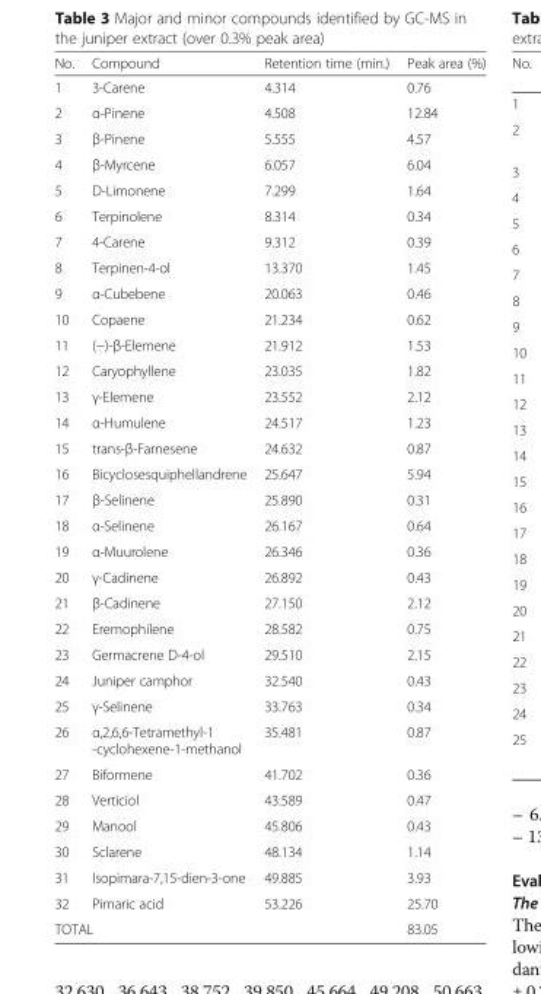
<table><thead><tr><td>No.</td><td>Compound</td><td>Retention time (min.)</td><td>Peak area (%)</td></tr></thead><tbody><tr><td>1</td><td>3-Carene</td><td>4.314</td><td>0.76</td></tr><tr><td>2</td><td>α-Pinene</td><td>4.508</td><td>12.84</td></tr><tr><td>3</td><td>β-Pinene</td><td>5.555</td><td>4.57</td></tr><tr><td>4</td><td>β-Myrcene</td><td>6.057</td><td>6.04</td></tr><tr><td>5</td><td>D-Limonene</td><td>7.299</td><td>1.64</td></tr><tr><td>6</td><td>Terpinolene</td><td>8.314</td><td>0.34</td></tr><tr><td>7</td><td>4-Carene</td><td>9.312</td><td>0.39</td></tr><tr><td>8</td><td>Terpinen-4-ol</td><td>13.370</td><td>1.45</td></tr><tr><td>9</td><td>α-Cubebene</td><td>20.063</td><td>0.46</td></tr><tr><td>10</td><td>Copaene</td><td>21.234</td><td>0.62</td></tr><tr><td>11</td><td>(−)-β-Elemene</td><td>21.912</td><td>1.53</td></tr><tr><td>12</td><td>Caryophyllene</td><td>23.035</td><td>1.82</td></tr><tr><td>13</td><td>γ-Elemene</td><td>23.552</td><td>2.12</td></tr><tr><td>14</td><td>α-Humulene</td><td>24.517</td><td>1.23</td></tr><tr><td>15</td><td>trans-β-Farnesene</td><td>24.632</td><td>0.87</td></tr><tr><td>16</td><td>Bicyclosesquiphellandrene</td><td>25.647</td><td>5.94</td></tr><tr><td>17</td><td>β-Selinene</td><td>25.890</td><td>0.31</td></tr><tr><td>18</td><td>α-Selinene</td><td>26.167</td><td>0.64</td></tr><tr><td>19</td><td>α-Muurolene</td><td>26.346</td><td>0.36</td></tr><tr><td>20</td><td>γ-Cadinene</td><td>26.892</td><td>0.43</td></tr><tr><td>21</td><td>β-Cadinene</td><td>27.150</td><td>2.12</td></tr><tr><td>22</td><td>Eremophilene</td><td>28.582</td><td>0.75</td></tr><tr><td>23</td><td>Germacrene D-4-ol</td><td>29.510</td><td>2.15</td></tr><tr><td>24</td><td>Juniper camphor</td><td>32.540</td><td>0.43</td></tr><tr><td>25</td><td>γ-Selinene</td><td>33.763</td><td>0.34</td></tr><tr><td>26</td><td>α,2,6,6-Tetramethyl-1 -cyclohexene-1-methanol</td><td>35.481</td><td>0.87</td></tr><tr><td>27</td><td>Biformene</td><td>41.702</td><td>0.36</td></tr><tr><td>28</td><td>Verticiol</td><td>43.589</td><td>0.47</td></tr><tr><td>29</td><td>Manool</td><td>45.806</td><td>0.43</td></tr><tr><td>30</td><td>Sclarene</td><td>48.134</td><td>1.14</td></tr><tr><td>31</td><td>Isopimara-7,15-dien-3-one</td><td>49.885</td><td>3.93</td></tr><tr><td>32</td><td>Pimaric acid</td><td>53.226</td><td>25.70</td></tr><tr><td colspan="3">TOTAL</td><td>83.05</td></tr></tbody></table>